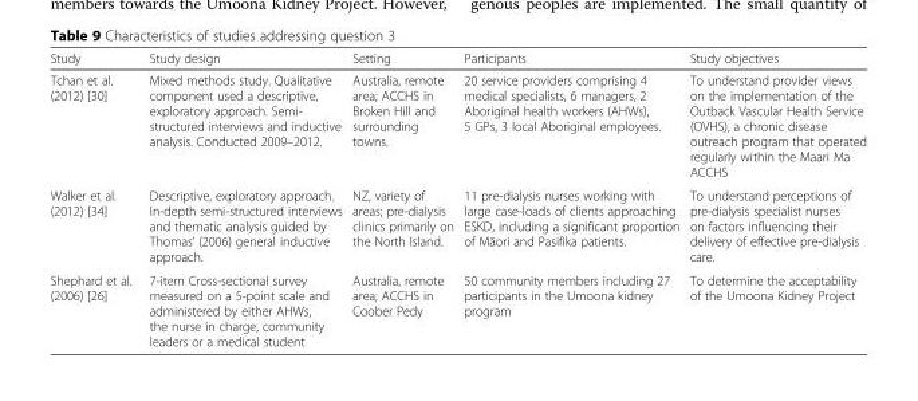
<table><thead><tr><td>Study</td><td>Study design</td><td>Setting</td><td>Participants</td><td>Study objectives</td></tr></thead><tbody><tr><td>Tchan et al. (2012) [30]</td><td>Mixed methods study. Qualitative component used a descriptive, exploratory approach. Semi- structured interviews and inductive analysis. Conducted 2009–2012.</td><td>Australia, remote area; ACCHS in Broken Hill and surrounding towns.</td><td>20 service providers comprising 4 medical specialists, 6 managers, 2 Aboriginal health workers (AHWs), 5 GPs, 3 local Aboriginal employees.</td><td>To understand provider views on the implementation of the Outback Vascular Health Service (OVHS), a chronic disease outreach program that operated regularly within the Maari Ma ACCHS</td></tr><tr><td>Walker et al. (2012) [34]</td><td>Descriptive, exploratory approach. In-depth semi-structured interviews and thematic analysis guided by Thomas’ (2006) general inductive approach.</td><td>NZ, variety of areas; pre-dialysis clinics primarily on the North Island.</td><td>11 pre-dialysis nurses working with large case-loads of clients approaching ESKD, including a significant proportion of Māori and Pasifika patients.</td><td>To understand perceptions of pre-dialysis specialist nurses on factors influencing their delivery of effective pre-dialysis care.</td></tr><tr><td>Shephard et al. (2006) [26]</td><td>7-item Cross-sectional survey measured on a 5-point scale and administered by either AHWs, the nurse in charge, community leaders or a medical student</td><td>Australia, remote area; ACCHS in Coober Pedy</td><td>50 community members including 27 participants in the Umoona kidney program</td><td>To determine the acceptability of the Umoona Kidney Project</td></tr></tbody></table>